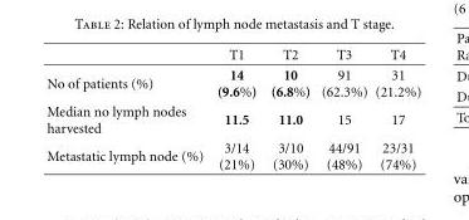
<table><thead><tr><td></td><td>T1</td><td>T2</td><td>T3</td><td>T4</td></tr></thead><tbody><tr><td>No of patients (%)</td><td>14 (9.6%)</td><td>10 (6.8%)</td><td>91 (62.3%)</td><td>31 (21.2%)</td></tr><tr><td>Median no lymph nodes harvested</td><td>11.5</td><td>11.0</td><td>15</td><td>17</td></tr><tr><td>Metastatic lymph node (%)</td><td>3/14 (21%)</td><td>3/10 (30%)</td><td>44/91 (48%)</td><td>23/31 (74%)</td></tr></tbody></table>